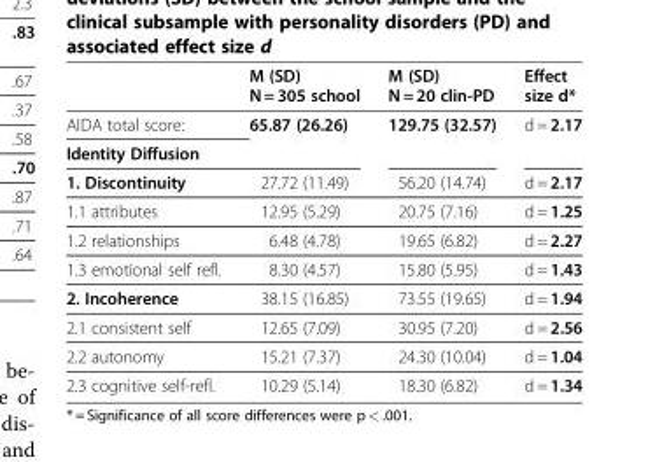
<table><thead><tr><td></td><td>M (SD) N = 305 school</td><td>M (SD) N = 20 clin-PD</td><td>Effect size d*</td></tr></thead><tbody><tr><td>AIDA total score:</td><td>65.87 (26.26)</td><td>129.75 (32.57)</td><td>d = 2.17</td></tr><tr><td colspan="4">Identity Diffusion</td></tr><tr><td>1. Discontinuity</td><td>27.72 (11.49)</td><td>56.20 (14.74)</td><td>d = 2.17</td></tr><tr><td>1.1 attributes</td><td>12.95 (5.29)</td><td>20.75 (7.16)</td><td>d = 1.25</td></tr><tr><td>1.2 relationships</td><td>6.48 (4.78)</td><td>19.65 (6.82)</td><td>d = 2.27</td></tr><tr><td>1.3 emotional self refl.</td><td>8.30 (4.57)</td><td>15.80 (5.95)</td><td>d = 1.43</td></tr><tr><td>2. Incoherence</td><td>38.15 (16.85)</td><td>73.55 (19.65)</td><td>d = 1.94</td></tr><tr><td>2.1 consistent self</td><td>12.65 (7.09)</td><td>30.95 (7.20)</td><td>d = 2.56</td></tr><tr><td>2.2 autonomy</td><td>15.21 (7.37)</td><td>24.30 (10.04)</td><td>d = 1.04</td></tr><tr><td>2.3 cognitive self-refl.</td><td>10.29 (5.14)</td><td>18.30 (6.82)</td><td>d = 1.34</td></tr></tbody></table>